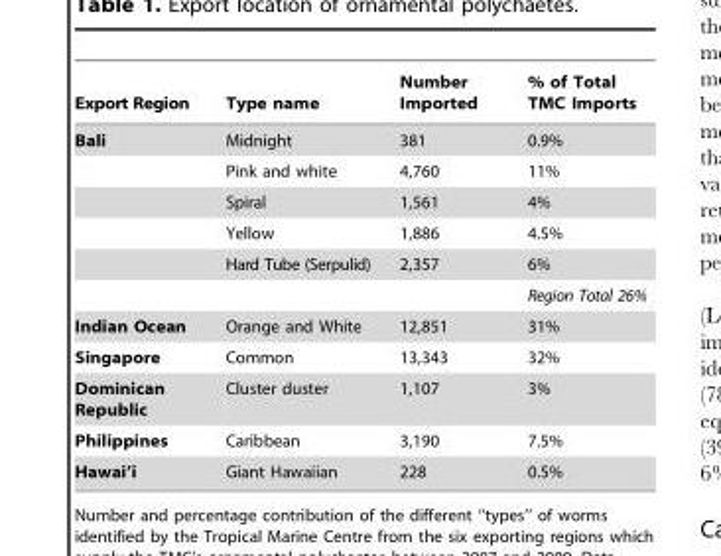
<table><thead><tr><td>Export Region</td><td>Type name</td><td>Number Imported</td><td>% of Total TMC Imports</td></tr></thead><tbody><tr><td rowspan="6">Bali</td><td>Midnight</td><td>381</td><td>0.9%</td></tr><tr><td>Pink and white</td><td>4,760</td><td>11%</td></tr><tr><td>Spiral</td><td>1,561</td><td>4%</td></tr><tr><td>Yellow</td><td>1,886</td><td>4.5%</td></tr><tr><td>Hard Tube (Serpulid)</td><td>2,357</td><td>6%</td></tr><tr><td></td><td></td><td>Region Total 26%</td></tr><tr><td>Indian Ocean</td><td>Orange and White</td><td>12,851</td><td>31%</td></tr><tr><td>Singapore</td><td>Common</td><td>13,343</td><td>32%</td></tr><tr><td>Dominican Republic</td><td>Cluster duster</td><td>1,107</td><td>3%</td></tr><tr><td>Philippines</td><td>Caribbean</td><td>3,190</td><td>7.5%</td></tr><tr><td>Hawai’i</td><td>Giant Hawaiian</td><td>228</td><td>0.5%</td></tr></tbody></table>